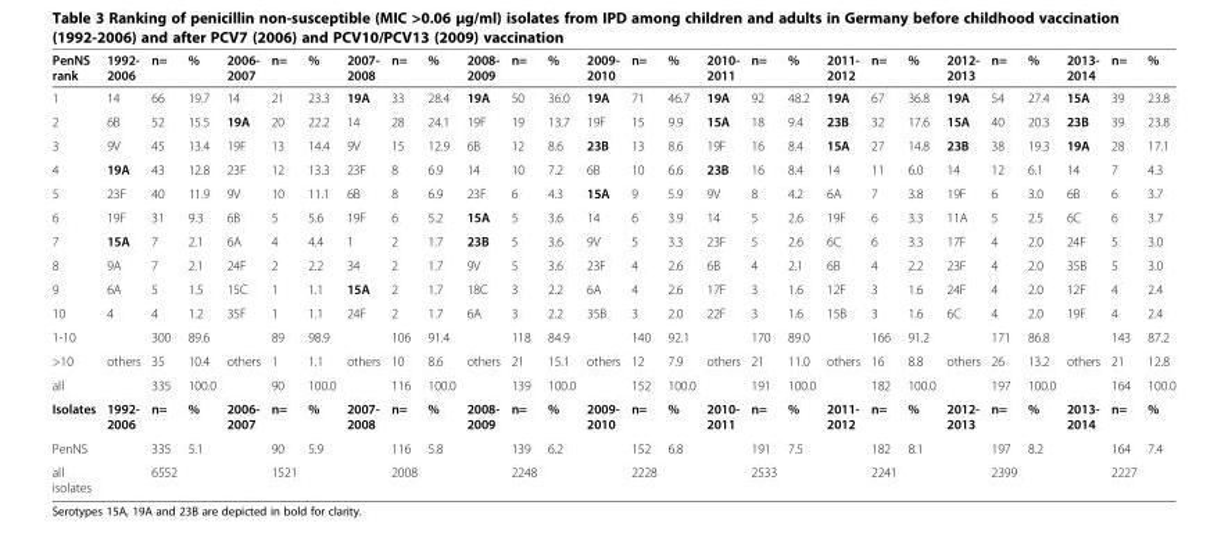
<table><thead><tr><td>PenNS rank</td><td>1992- 2006</td><td>n=</td><td>%</td><td>2006- 2007</td><td>n=</td><td>%</td><td>2007- 2008</td><td>n=</td><td>%</td><td>2008- 2009</td><td>n=</td><td>%</td><td>2009- 2010</td><td>n=</td><td>%</td><td>2010- 2011</td><td>n=</td><td>%</td><td>2011- 2012</td><td>n=</td><td>%</td><td>2012- 2013</td><td>n=</td><td>%</td><td>2013- 2014</td><td>n=</td><td>%</td></tr></thead><tbody><tr><td>1</td><td>14</td><td>66</td><td>19.7</td><td>14</td><td>21</td><td>23.3</td><td>19A</td><td>33</td><td>28.4</td><td>19A</td><td>50</td><td>36.0</td><td>19A</td><td>71</td><td>46.7</td><td>19A</td><td>92</td><td>48.2</td><td>19A</td><td>67</td><td>36.8</td><td>19A</td><td>54</td><td>27.4</td><td>15A</td><td>39</td><td>23.8</td></tr><tr><td>2</td><td>6B</td><td>52</td><td>15.5</td><td>19A</td><td>20</td><td>22.2</td><td>14</td><td>28</td><td>24.1</td><td>19F</td><td>19</td><td>13.7</td><td>19F</td><td>15</td><td>9.9</td><td>15A</td><td>18</td><td>9.4</td><td>23B</td><td>32</td><td>17.6</td><td>15A</td><td>40</td><td>20.3</td><td>23B</td><td>39</td><td>23.8</td></tr><tr><td>3</td><td>9V</td><td>45</td><td>13.4</td><td>19F</td><td>13</td><td>14.4</td><td>9V</td><td>15</td><td>12.9</td><td>6B</td><td>12</td><td>8.6</td><td>23B</td><td>13</td><td>8.6</td><td>19F</td><td>16</td><td>8.4</td><td>15A</td><td>27</td><td>14.8</td><td>23B</td><td>38</td><td>19.3</td><td>19A</td><td>28</td><td>17.1</td></tr><tr><td>4</td><td>19A</td><td>43</td><td>12.8</td><td>23F</td><td>12</td><td>13.3</td><td>23F</td><td>8</td><td>6.9</td><td>14</td><td>10</td><td>7.2</td><td>6B</td><td>10</td><td>6.6</td><td>23B</td><td>16</td><td>8.4</td><td>14</td><td>11</td><td>6.0</td><td>14</td><td>12</td><td>6.1</td><td>14</td><td>7</td><td>4.3</td></tr><tr><td>5</td><td>23F</td><td>40</td><td>11.9</td><td>9V</td><td>10</td><td>11.1</td><td>6B</td><td>8</td><td>6.9</td><td>23F</td><td>6</td><td>4.3</td><td>15A</td><td>9</td><td>5.9</td><td>9V</td><td>8</td><td>4.2</td><td>6A</td><td>7</td><td>3.8</td><td>19F</td><td>6</td><td>3.0</td><td>6B</td><td>6</td><td>3.7</td></tr><tr><td>6</td><td>19F</td><td>31</td><td>9.3</td><td>6B</td><td>5</td><td>5.6</td><td>19F</td><td>6</td><td>5.2</td><td>15A</td><td>5</td><td>3.6</td><td>14</td><td>6</td><td>3.9</td><td>14</td><td>5</td><td>2.6</td><td>19F</td><td>6</td><td>3.3</td><td>11A</td><td>5</td><td>2.5</td><td>6C</td><td>6</td><td>3.7</td></tr><tr><td>7</td><td>15A</td><td>7</td><td>2.1</td><td>6A</td><td>4</td><td>4.4</td><td>1</td><td>2</td><td>1.7</td><td>23B</td><td>5</td><td>3.6</td><td>9V</td><td>5</td><td>3.3</td><td>23F</td><td>5</td><td>2.6</td><td>6C</td><td>6</td><td>3.3</td><td>17F</td><td>4</td><td>2.0</td><td>24F</td><td>5</td><td>3.0</td></tr><tr><td>8</td><td>9A</td><td>7</td><td>2.1</td><td>24F</td><td>2</td><td>2.2</td><td>34</td><td>2</td><td>1.7</td><td>9V</td><td>5</td><td>3.6</td><td>23F</td><td>4</td><td>2.6</td><td>6B</td><td>4</td><td>2.1</td><td>6B</td><td>4</td><td>2.2</td><td>23F</td><td>4</td><td>2.0</td><td>35B</td><td>5</td><td>3.0</td></tr><tr><td>9</td><td>6A</td><td>5</td><td>1.5</td><td>15C</td><td>1</td><td>1.1</td><td>15A</td><td>2</td><td>1.7</td><td>18C</td><td>3</td><td>2.2</td><td>6A</td><td>4</td><td>2.6</td><td>17F</td><td>3</td><td>1.6</td><td>12F</td><td>3</td><td>1.6</td><td>24F</td><td>4</td><td>2.0</td><td>12F</td><td>4</td><td>2.4</td></tr><tr><td>10</td><td>4</td><td>4</td><td>1.2</td><td>35F</td><td>1</td><td>1.1</td><td>24F</td><td>2</td><td>1.7</td><td>6A</td><td>3</td><td>2.2</td><td>35B</td><td>3</td><td>2.0</td><td>22F</td><td>3</td><td>1.6</td><td>15B</td><td>3</td><td>1.6</td><td>6C</td><td>4</td><td>2.0</td><td>19F</td><td>4</td><td>2.4</td></tr><tr><td>1-10</td><td></td><td>300</td><td>89.6</td><td></td><td>89</td><td>98.9</td><td></td><td>106</td><td>91.4</td><td></td><td>118</td><td>84.9</td><td></td><td>140</td><td>92.1</td><td></td><td>170</td><td>89.0</td><td></td><td>166</td><td>91.2</td><td></td><td>171</td><td>86.8</td><td></td><td>143</td><td>87.2</td></tr><tr><td>&gt;10</td><td>others</td><td>35</td><td>10.4</td><td>others</td><td>1</td><td>1.1</td><td>others</td><td>10</td><td>8.6</td><td>others</td><td>21</td><td>15.1</td><td>others</td><td>12</td><td>7.9</td><td>others</td><td>21</td><td>11.0</td><td>others</td><td>16</td><td>8.8</td><td>others</td><td>26</td><td>13.2</td><td>others</td><td>21</td><td>12.8</td></tr><tr><td>all</td><td></td><td>335</td><td>100.0</td><td></td><td>90</td><td>100.0</td><td></td><td>116</td><td>100.0</td><td></td><td>139</td><td>100.0</td><td></td><td>152</td><td>100.0</td><td></td><td>191</td><td>100.0</td><td></td><td>182</td><td>100.0</td><td></td><td>197</td><td>100.0</td><td></td><td>164</td><td>100.0</td></tr><tr><td>Isolates</td><td>1992- 2006</td><td>n=</td><td>%</td><td>2006- 2007</td><td>n=</td><td>%</td><td>2007- 2008</td><td>n=</td><td>%</td><td>2008- 2009</td><td>n=</td><td>%</td><td>2009- 2010</td><td>n=</td><td>%</td><td>2010- 2011</td><td>n=</td><td>%</td><td>2011- 2012</td><td>n=</td><td>%</td><td>2012- 2013</td><td>n=</td><td>%</td><td>2013- 2014</td><td>n=</td><td>%</td></tr><tr><td>PenNS</td><td></td><td>335</td><td>5.1</td><td></td><td>90</td><td>5.9</td><td></td><td>116</td><td>5.8</td><td></td><td>139</td><td>6.2</td><td></td><td>152</td><td>6.8</td><td></td><td>191</td><td>7.5</td><td></td><td>182</td><td>8.1</td><td></td><td>197</td><td>8.2</td><td></td><td>164</td><td>7.4</td></tr><tr><td>all isolates</td><td></td><td>6552</td><td></td><td></td><td>1521</td><td></td><td></td><td>2008</td><td></td><td></td><td>2248</td><td></td><td></td><td>2228</td><td></td><td></td><td>2533</td><td></td><td></td><td>2241</td><td></td><td></td><td>2399</td><td></td><td></td><td>2227</td><td></td></tr></tbody></table>